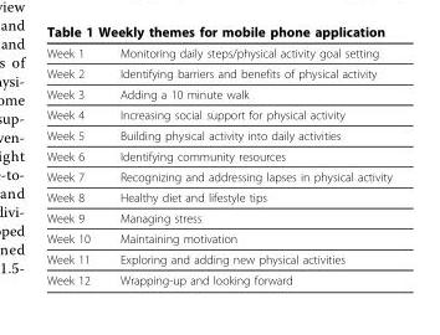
<table><thead><tr><td>Week 1</td><td>Monitoring daily steps/physical activity goal setting</td></tr></thead><tbody><tr><td>Week 2</td><td>Identifying barriers and benefits of physical activity</td></tr><tr><td>Week 3</td><td>Adding a 10 minute walk</td></tr><tr><td>Week 4</td><td>Increasing social support for physical activity</td></tr><tr><td>Week 5</td><td>Building physical activity into daily activities</td></tr><tr><td>Week 6</td><td>Identifying community resources</td></tr><tr><td>Week 7</td><td>Recognizing and addressing lapses in physical activity</td></tr><tr><td>Week 8</td><td>Healthy diet and lifestyle tips</td></tr><tr><td>Week 9</td><td>Managing stress</td></tr><tr><td>Week 10</td><td>Maintaining motivation</td></tr><tr><td>Week 11</td><td>Exploring and adding new physical activities</td></tr><tr><td>Week 12</td><td>Wrapping-up and looking forward</td></tr></tbody></table>